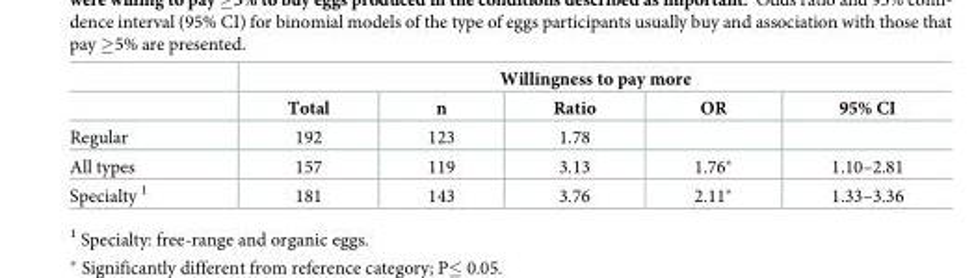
<table><thead><tr><td rowspan="2"></td><td colspan="5">Willingness to pay more</td></tr><tr><td>Total</td><td>n</td><td>Ratio</td><td>OR</td><td>95% CI</td></tr></thead><tbody><tr><td>Regular</td><td>192</td><td>123</td><td>1.78</td><td></td><td></td></tr><tr><td>All types</td><td>157</td><td>119</td><td>3.13</td><td>1.76*</td><td>1.10–2.81</td></tr><tr><td>Specialty <sup>1</sup></td><td>181</td><td>143</td><td>3.76</td><td>2.11*</td><td>1.33–3.36</td></tr></tbody></table>